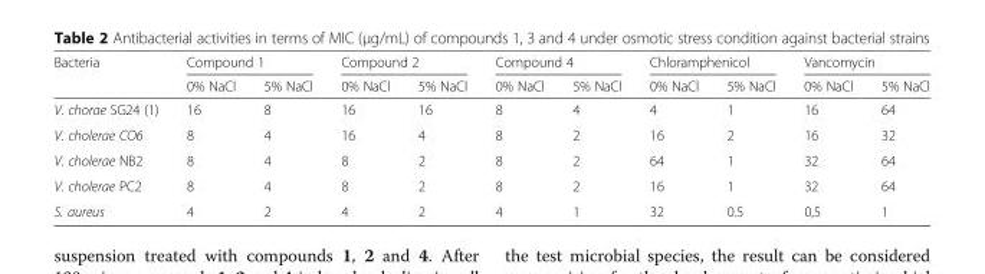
<table><thead><tr><td rowspan="2">Bacteria</td><td colspan="2">Compound 1</td><td colspan="2">Compound 2</td><td colspan="2">Compound 4</td><td colspan="2">Chloramphenicol</td><td colspan="2">Vancomycin</td></tr><tr><td>0% NaCl</td><td>5% NaCl</td><td>0% NaCl</td><td>5% NaCl</td><td>0% NaCl</td><td>5% NaCl</td><td>0% NaCl</td><td>5% NaCl</td><td>0% NaCl</td><td>5% NaCl</td></tr></thead><tbody><tr><td>V. chorae SG24 (1)</td><td>16</td><td>8</td><td>16</td><td>16</td><td>8</td><td>4</td><td>4</td><td>1</td><td>16</td><td>64</td></tr><tr><td>V. cholerae CO6</td><td>8</td><td>4</td><td>16</td><td>4</td><td>8</td><td>2</td><td>16</td><td>2</td><td>16</td><td>32</td></tr><tr><td>V. cholerae NB2</td><td>8</td><td>4</td><td>8</td><td>2</td><td>8</td><td>2</td><td>64</td><td>1</td><td>32</td><td>64</td></tr><tr><td>V. cholerae PC2</td><td>8</td><td>4</td><td>8</td><td>2</td><td>8</td><td>2</td><td>16</td><td>1</td><td>32</td><td>64</td></tr><tr><td>S. aureus</td><td>4</td><td>2</td><td>4</td><td>2</td><td>4</td><td>1</td><td>32</td><td>0.5</td><td>0,5</td><td>1</td></tr></tbody></table>